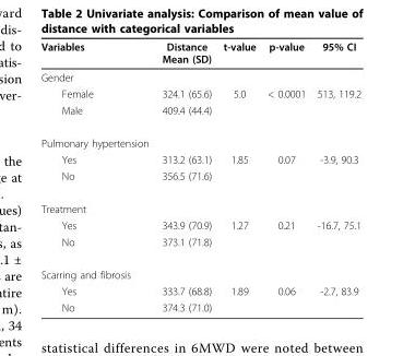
<table><thead><tr><td>Variables</td><td>Distance Mean (SD)</td><td>t-value</td><td>p-value</td><td>95% CI</td></tr></thead><tbody><tr><td colspan="5">Gender</td></tr><tr><td>Female</td><td>324.1 (65.6)</td><td>5.0</td><td>&lt; 0.0001</td><td>513, 119.2</td></tr><tr><td>Male</td><td>409.4 (44.4)</td><td></td><td></td><td></td></tr><tr><td colspan="5">Pulmonary hypertension</td></tr><tr><td>Yes</td><td>313.2 (63.1)</td><td>1.85</td><td>0.07</td><td>-3.9, 90.3</td></tr><tr><td>No</td><td>356.5 (71.6)</td><td></td><td></td><td></td></tr><tr><td colspan="5">Treatment</td></tr><tr><td>Yes</td><td>343.9 (70.9)</td><td>1.27</td><td>0.21</td><td>-16.7, 75.1</td></tr><tr><td>No</td><td>373.1 (71.8)</td><td></td><td></td><td></td></tr><tr><td colspan="5">Scarring and fibrosis</td></tr><tr><td>Yes</td><td>333.7 (68.8)</td><td>1.89</td><td>0.06</td><td>-2.7, 83.9</td></tr><tr><td>No</td><td>374.3 (71.0)</td><td></td><td></td><td></td></tr></tbody></table>